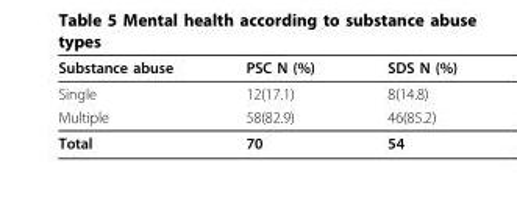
<table><thead><tr><td>Substance abuse</td><td>PSC N (%)</td><td>SDS N (%)</td></tr></thead><tbody><tr><td>Single</td><td>12(17.1)</td><td>8(14.8)</td></tr><tr><td>Multiple</td><td>58(82.9)</td><td>46(85.2)</td></tr><tr><td>Total</td><td>70</td><td>54</td></tr></tbody></table>